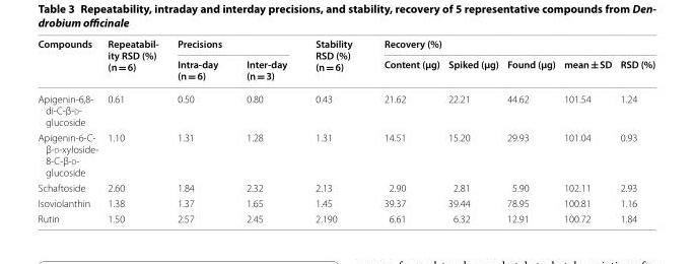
<table><thead><tr><td rowspan="2">Compounds</td><td rowspan="2">Repeatabil- ity RSD (%) (n = 6)</td><td colspan="2">Precisions</td><td rowspan="2">Stability RSD (%) (n = 6)</td><td colspan="5">Recovery (%)</td></tr><tr><td>Intra-day (n = 6)</td><td>Inter-day (n = 3)</td><td>Content (μg)</td><td>Spiked (μg)</td><td>Found (μg)</td><td>mean ± SD</td><td>RSD (%)</td></tr></thead><tbody><tr><td>Apigenin-6,8- di-C-β-d- glucoside</td><td>0.61</td><td>0.50</td><td>0.80</td><td>0.43</td><td>21.62</td><td>22.21</td><td>44.62</td><td>101.54</td><td>1.24</td></tr><tr><td>Apigenin-6-C- β-d-xyloside- 8-C-β-d- glucoside</td><td>1.10</td><td>1.31</td><td>1.28</td><td>1.31</td><td>14.51</td><td>15.20</td><td>29.93</td><td>101.04</td><td>0.93</td></tr><tr><td>Schaftoside</td><td>2.60</td><td>1.84</td><td>2.32</td><td>2.13</td><td>2.90</td><td>2.81</td><td>5.90</td><td>102.11</td><td>2.93</td></tr><tr><td>Isoviolanthin</td><td>1.38</td><td>1.37</td><td>1.65</td><td>1.45</td><td>39.37</td><td>39.44</td><td>78.95</td><td>100.81</td><td>1.16</td></tr><tr><td>Rutin</td><td>1.50</td><td>2.57</td><td>2.45</td><td>2.190</td><td>6.61</td><td>6.32</td><td>12.91</td><td>100.72</td><td>1.84</td></tr></tbody></table>